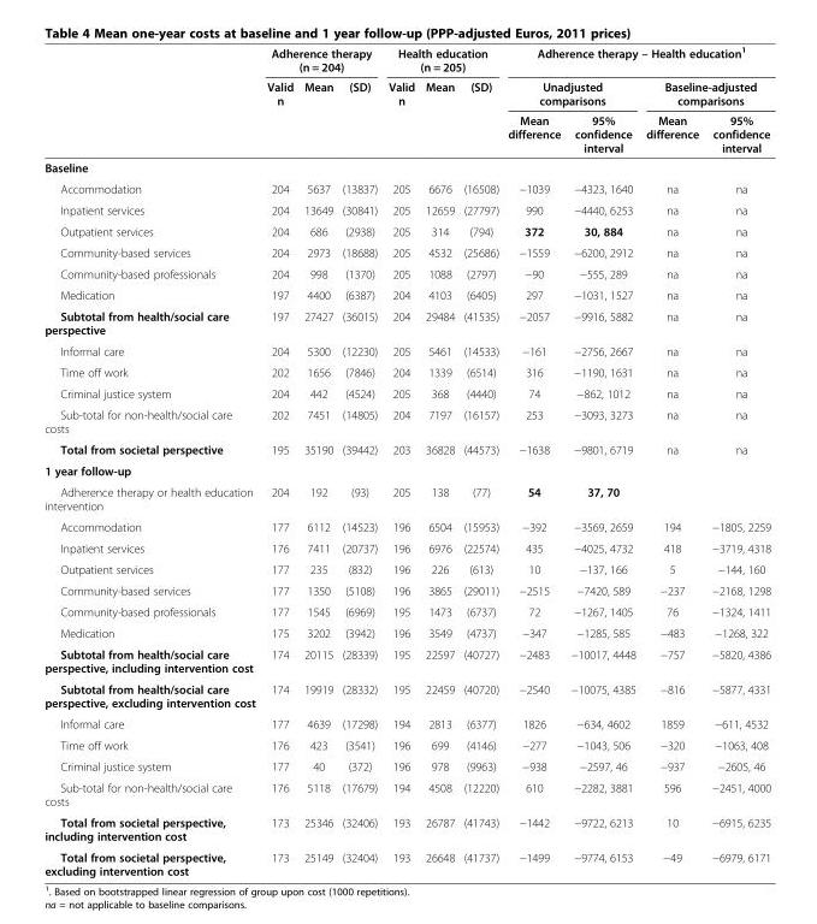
<table><thead><tr><td rowspan="3"></td><td colspan="3">Adherence therapy (n = 204)</td><td colspan="3">Health education (n = 205)</td><td colspan="4">Adherence therapy – Health education<sup>1</sup></td></tr><tr><td rowspan="2">Valid n</td><td rowspan="2">Mean</td><td rowspan="2">(SD)</td><td rowspan="2">Valid n</td><td rowspan="2">Mean</td><td rowspan="2">(SD)</td><td colspan="2">Unadjusted comparisons</td><td colspan="2">Baseline-adjusted comparisons</td></tr><tr><td>Mean difference</td><td>95% confidence interval</td><td>Mean difference</td><td>95% confidence interval</td></tr></thead><tbody><tr><td colspan="11">Baseline</td></tr><tr><td>Accommodation</td><td>204</td><td>5637</td><td>(13837)</td><td>205</td><td>6676</td><td>(16508)</td><td>−1039</td><td>−4323, 1640</td><td>na</td><td>na</td></tr><tr><td>Inpatient services</td><td>204</td><td>13649</td><td>(30841)</td><td>205</td><td>12659</td><td>(27797)</td><td>990</td><td>−4440, 6253</td><td>na</td><td>na</td></tr><tr><td>Outpatient services</td><td>204</td><td>686</td><td>(2938)</td><td>205</td><td>314</td><td>(794)</td><td>372</td><td>30, 884</td><td>na</td><td>na</td></tr><tr><td>Community-based services</td><td>204</td><td>2973</td><td>(18688)</td><td>205</td><td>4532</td><td>(25686)</td><td>−1559</td><td>−6200, 2912</td><td>na</td><td>na</td></tr><tr><td>Community-based professionals</td><td>204</td><td>998</td><td>(1370)</td><td>205</td><td>1088</td><td>(2797)</td><td>−90</td><td>−555, 289</td><td>na</td><td>na</td></tr><tr><td>Medication</td><td>197</td><td>4400</td><td>(6387)</td><td>204</td><td>4103</td><td>(6405)</td><td>297</td><td>−1031, 1527</td><td>na</td><td>na</td></tr><tr><td>Subtotal from health/social care perspective</td><td>197</td><td>27427</td><td>(36015)</td><td>204</td><td>29484</td><td>(41535)</td><td>−2057</td><td>−9916, 5882</td><td>na</td><td>na</td></tr><tr><td>Informal care</td><td>204</td><td>5300</td><td>(12230)</td><td>205</td><td>5461</td><td>(14533)</td><td>−161</td><td>−2756, 2667</td><td>na</td><td>na</td></tr><tr><td>Time off work</td><td>202</td><td>1656</td><td>(7846)</td><td>204</td><td>1339</td><td>(6514)</td><td>316</td><td>−1190, 1631</td><td>na</td><td>na</td></tr><tr><td>Criminal justice system</td><td>204</td><td>442</td><td>(4524)</td><td>205</td><td>368</td><td>(4440)</td><td>74</td><td>−862, 1012</td><td>na</td><td>na</td></tr><tr><td>Sub-total for non-health/social care costs</td><td>202</td><td>7451</td><td>(14805)</td><td>204</td><td>7197</td><td>(16157)</td><td>253</td><td>−3093, 3273</td><td>na</td><td>na</td></tr><tr><td>Total from societal perspective</td><td>195</td><td>35190</td><td>(39442)</td><td>203</td><td>36828</td><td>(44573)</td><td>−1638</td><td>−9801, 6719</td><td>na</td><td>na</td></tr><tr><td colspan="11">1 year follow-up</td></tr><tr><td>Adherence therapy or health education intervention</td><td>204</td><td>192</td><td>(93)</td><td>205</td><td>138</td><td>(77)</td><td>54</td><td>37, 70</td><td></td><td></td></tr><tr><td>Accommodation</td><td>177</td><td>6112</td><td>(14523)</td><td>196</td><td>6504</td><td>(15953)</td><td>−392</td><td>−3569, 2659</td><td>194</td><td>−1805, 2259</td></tr><tr><td>Inpatient services</td><td>176</td><td>7411</td><td>(20737)</td><td>196</td><td>6976</td><td>(22574)</td><td>435</td><td>−4025, 4732</td><td>418</td><td>−3719, 4318</td></tr><tr><td>Outpatient services</td><td>177</td><td>235</td><td>(832)</td><td>196</td><td>226</td><td>(613)</td><td>10</td><td>−137, 166</td><td>5</td><td>−144, 160</td></tr><tr><td>Community-based services</td><td>177</td><td>1350</td><td>(5108)</td><td>196</td><td>3865</td><td>(29011)</td><td>−2515</td><td>−7420, 589</td><td>−237</td><td>−2168, 1298</td></tr><tr><td>Community-based professionals</td><td>177</td><td>1545</td><td>(6969)</td><td>195</td><td>1473</td><td>(6737)</td><td>72</td><td>−1267, 1405</td><td>76</td><td>−1324, 1411</td></tr><tr><td>Medication</td><td>175</td><td>3202</td><td>(3942)</td><td>196</td><td>3549</td><td>(4737)</td><td>−347</td><td>−1285, 585</td><td>−483</td><td>−1268, 322</td></tr><tr><td>Subtotal from health/social care perspective, including intervention cost</td><td>174</td><td>20115</td><td>(28339)</td><td>195</td><td>22597</td><td>(40727)</td><td>−2483</td><td>−10017, 4448</td><td>−757</td><td>−5820, 4386</td></tr><tr><td>Subtotal from health/social care perspective, excluding intervention cost</td><td>174</td><td>19919</td><td>(28332)</td><td>195</td><td>22459</td><td>(40720)</td><td>−2540</td><td>−10075, 4385</td><td>−816</td><td>−5877, 4331</td></tr><tr><td>Informal care</td><td>177</td><td>4639</td><td>(17298)</td><td>194</td><td>2813</td><td>(6377)</td><td>1826</td><td>−634, 4602</td><td>1859</td><td>−611, 4532</td></tr><tr><td>Time off work</td><td>176</td><td>423</td><td>(3541)</td><td>196</td><td>699</td><td>(4146)</td><td>−277</td><td>−1043, 506</td><td>−320</td><td>−1063, 408</td></tr><tr><td>Criminal justice system</td><td>177</td><td>40</td><td>(372)</td><td>196</td><td>978</td><td>(9963)</td><td>−938</td><td>−2597, 46</td><td>−937</td><td>−2605, 46</td></tr><tr><td>Sub-total for non-health/social care costs</td><td>176</td><td>5118</td><td>(17679)</td><td>194</td><td>4508</td><td>(12220)</td><td>610</td><td>−2282, 3881</td><td>596</td><td>−2451, 4000</td></tr><tr><td>Total from societal perspective, including intervention cost</td><td>173</td><td>25346</td><td>(32406)</td><td>193</td><td>26787</td><td>(41743)</td><td>−1442</td><td>−9722, 6213</td><td>10</td><td>−6915, 6235</td></tr><tr><td>Total from societal perspective, excluding intervention cost</td><td>173</td><td>25149</td><td>(32404)</td><td>193</td><td>26648</td><td>(41737)</td><td>−1499</td><td>−9774, 6153</td><td>−49</td><td>−6979, 6171</td></tr></tbody></table>